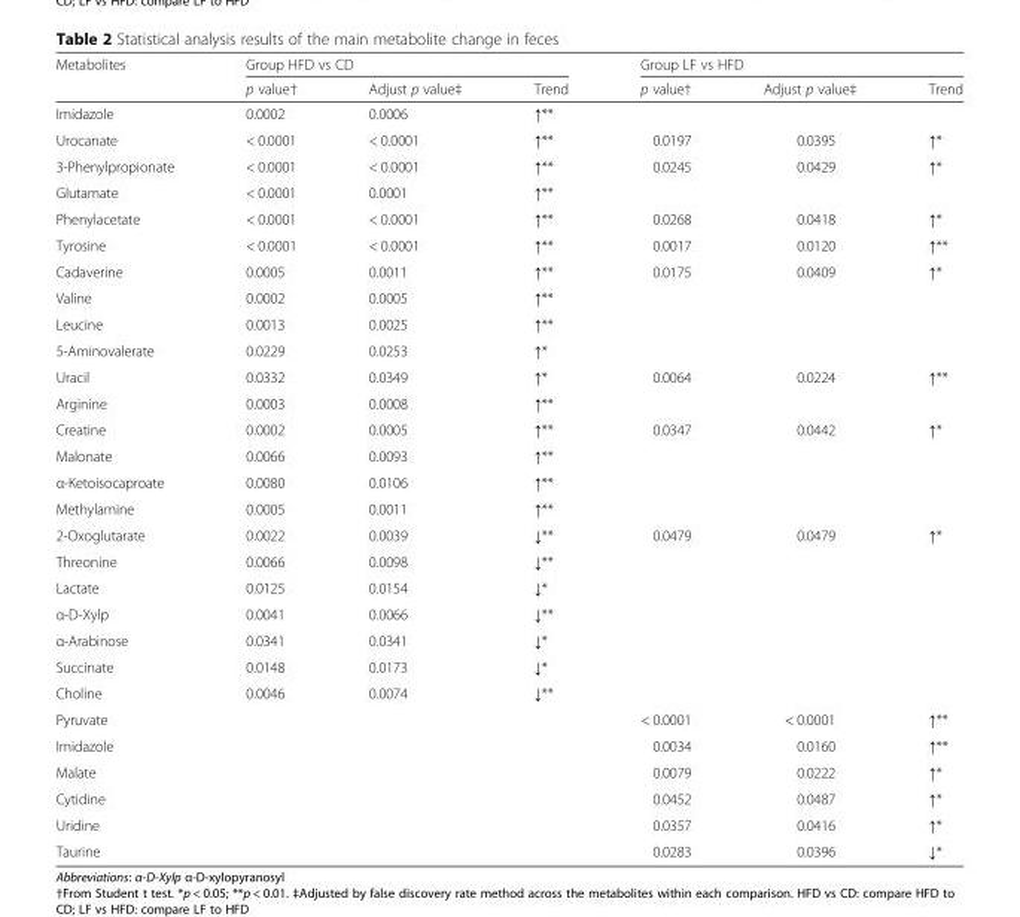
<table><thead><tr><td rowspan="2">Metabolites</td><td colspan="3">Group HFD vs CD</td><td colspan="3">Group LF vs HFD</td></tr><tr><td>p value†</td><td>Adjust p value‡</td><td>Trend</td><td>p value†</td><td>Adjust p value‡</td><td>Trend</td></tr></thead><tbody><tr><td>Imidazole</td><td>0.0002</td><td>0.0006</td><td>↑**</td><td></td><td></td><td></td></tr><tr><td>Urocanate</td><td>&lt; 0.0001</td><td>&lt; 0.0001</td><td>↑**</td><td>0.0197</td><td>0.0395</td><td>↑*</td></tr><tr><td>3-Phenylpropionate</td><td>&lt; 0.0001</td><td>&lt; 0.0001</td><td>↑**</td><td>0.0245</td><td>0.0429</td><td>↑*</td></tr><tr><td>Glutamate</td><td>&lt; 0.0001</td><td>0.0001</td><td>↑**</td><td></td><td></td><td></td></tr><tr><td>Phenylacetate</td><td>&lt; 0.0001</td><td>&lt; 0.0001</td><td>↑**</td><td>0.0268</td><td>0.0418</td><td>↑*</td></tr><tr><td>Tyrosine</td><td>&lt; 0.0001</td><td>&lt; 0.0001</td><td>↑**</td><td>0.0017</td><td>0.0120</td><td>↑**</td></tr><tr><td>Cadaverine</td><td>0.0005</td><td>0.0011</td><td>↑**</td><td>0.0175</td><td>0.0409</td><td>↑*</td></tr><tr><td>Valine</td><td>0.0002</td><td>0.0005</td><td>↑**</td><td></td><td></td><td></td></tr><tr><td>Leucine</td><td>0.0013</td><td>0.0025</td><td>↑**</td><td></td><td></td><td></td></tr><tr><td>5-Aminovalerate</td><td>0.0229</td><td>0.0253</td><td>↑*</td><td></td><td></td><td></td></tr><tr><td>Uracil</td><td>0.0332</td><td>0.0349</td><td>↑*</td><td>0.0064</td><td>0.0224</td><td>↑**</td></tr><tr><td>Arginine</td><td>0.0003</td><td>0.0008</td><td>↑**</td><td></td><td></td><td></td></tr><tr><td>Creatine</td><td>0.0002</td><td>0.0005</td><td>↑**</td><td>0.0347</td><td>0.0442</td><td>↑*</td></tr><tr><td>Malonate</td><td>0.0066</td><td>0.0093</td><td>↑**</td><td></td><td></td><td></td></tr><tr><td>α-Ketoisocaproate</td><td>0.0080</td><td>0.0106</td><td>↑**</td><td></td><td></td><td></td></tr><tr><td>Methylamine</td><td>0.0005</td><td>0.0011</td><td>↑**</td><td></td><td></td><td></td></tr><tr><td>2-Oxoglutarate</td><td>0.0022</td><td>0.0039</td><td>↓**</td><td>0.0479</td><td>0.0479</td><td>↑*</td></tr><tr><td>Threonine</td><td>0.0066</td><td>0.0098</td><td>↓**</td><td></td><td></td><td></td></tr><tr><td>Lactate</td><td>0.0125</td><td>0.0154</td><td>↓*</td><td></td><td></td><td></td></tr><tr><td>α-D-Xylp</td><td>0.0041</td><td>0.0066</td><td>↓**</td><td></td><td></td><td></td></tr><tr><td>α-Arabinose</td><td>0.0341</td><td>0.0341</td><td>↓*</td><td></td><td></td><td></td></tr><tr><td>Succinate</td><td>0.0148</td><td>0.0173</td><td>↓*</td><td></td><td></td><td></td></tr><tr><td>Choline</td><td>0.0046</td><td>0.0074</td><td>↓**</td><td></td><td></td><td></td></tr><tr><td>Pyruvate</td><td></td><td></td><td></td><td>&lt; 0.0001</td><td>&lt; 0.0001</td><td>↑**</td></tr><tr><td>Imidazole</td><td></td><td></td><td></td><td>0.0034</td><td>0.0160</td><td>↑**</td></tr><tr><td>Malate</td><td></td><td></td><td></td><td>0.0079</td><td>0.0222</td><td>↑*</td></tr><tr><td>Cytidine</td><td></td><td></td><td></td><td>0.0452</td><td>0.0487</td><td>↑*</td></tr><tr><td>Uridine</td><td></td><td></td><td></td><td>0.0357</td><td>0.0416</td><td>↑*</td></tr><tr><td>Taurine</td><td></td><td></td><td></td><td>0.0283</td><td>0.0396</td><td>↓*</td></tr></tbody></table>